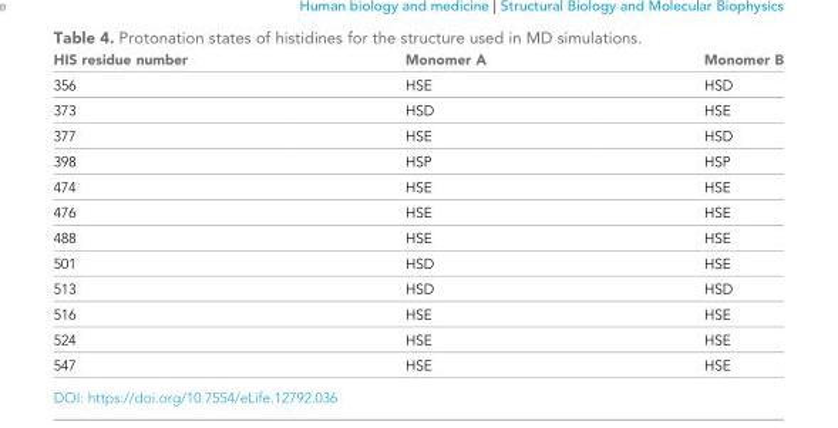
<table><thead><tr><td>HIS residue number</td><td>Monomer A</td><td>Monomer B</td></tr></thead><tbody><tr><td>356</td><td>HSE</td><td>HSD</td></tr><tr><td>373</td><td>HSD</td><td>HSE</td></tr><tr><td>377</td><td>HSE</td><td>HSD</td></tr><tr><td>398</td><td>HSP</td><td>HSP</td></tr><tr><td>474</td><td>HSE</td><td>HSE</td></tr><tr><td>476</td><td>HSE</td><td>HSE</td></tr><tr><td>488</td><td>HSE</td><td>HSE</td></tr><tr><td>501</td><td>HSD</td><td>HSE</td></tr><tr><td>513</td><td>HSD</td><td>HSD</td></tr><tr><td>516</td><td>HSE</td><td>HSE</td></tr><tr><td>524</td><td>HSE</td><td>HSE</td></tr><tr><td>547</td><td>HSE</td><td>HSE</td></tr></tbody></table>